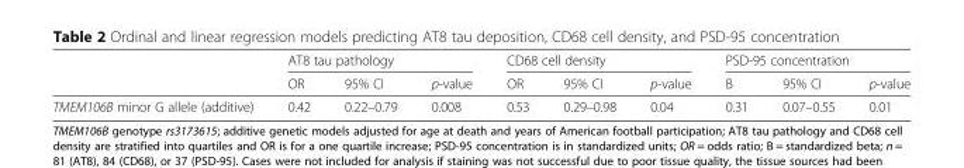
<table><thead><tr><td rowspan="2"></td><td colspan="3">AT8 tau pathology</td><td colspan="3">CD68 cell density</td><td colspan="3">PSD-95 concentration</td></tr><tr><td>OR</td><td>95% CI</td><td>p-value</td><td>OR</td><td>95% CI</td><td>p-value</td><td>B</td><td>95% CI</td><td>p-value</td></tr></thead><tbody><tr><td>TMEM106B minor G allele (additive)</td><td>0.42</td><td>0.22–0.79</td><td>0.008</td><td>0.53</td><td>0.29–0.98</td><td>0.04</td><td>0.31</td><td>0.07–0.55</td><td>0.01</td></tr></tbody></table>